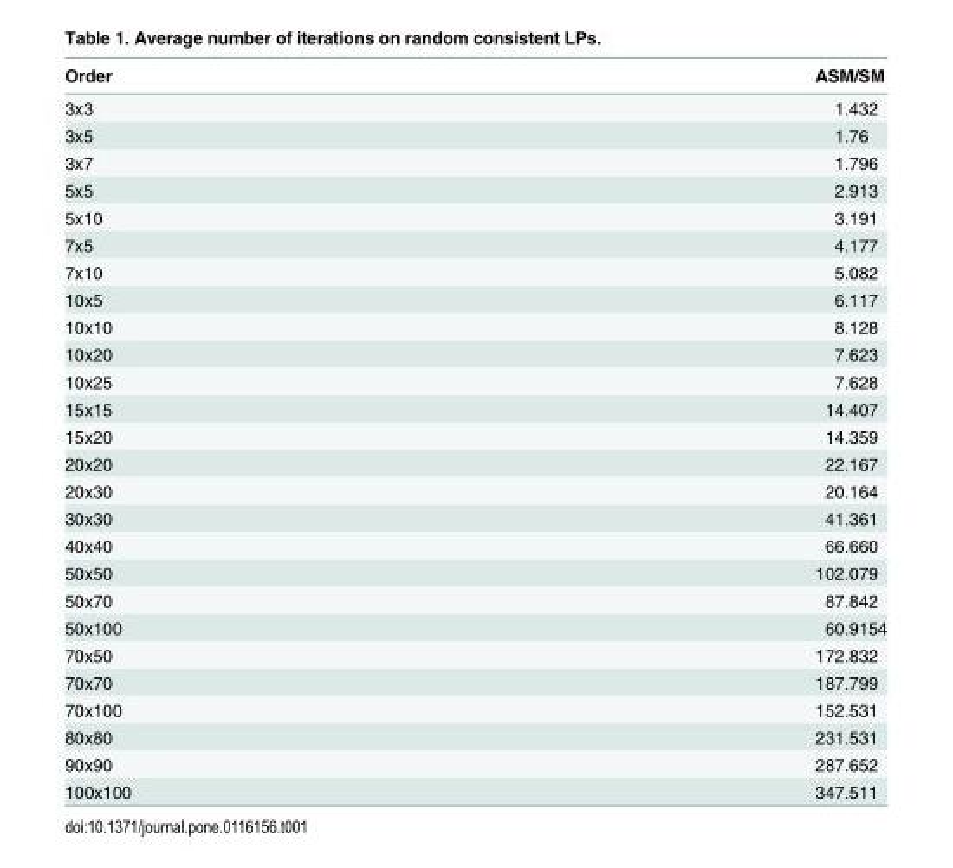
<table><thead><tr><td>Order</td><td>ASM/SM</td></tr></thead><tbody><tr><td>3x3</td><td>1.432</td></tr><tr><td>3x5</td><td>1.76</td></tr><tr><td>3x7</td><td>1.796</td></tr><tr><td>5x5</td><td>2.913</td></tr><tr><td>5x10</td><td>3.191</td></tr><tr><td>7x5</td><td>4.177</td></tr><tr><td>7x10</td><td>5.082</td></tr><tr><td>10x5</td><td>6.117</td></tr><tr><td>10x10</td><td>8.128</td></tr><tr><td>10x20</td><td>7.623</td></tr><tr><td>10x25</td><td>7.628</td></tr><tr><td>15x15</td><td>14.407</td></tr><tr><td>15x20</td><td>14.359</td></tr><tr><td>20x20</td><td>22.167</td></tr><tr><td>20x30</td><td>20.164</td></tr><tr><td>30x30</td><td>41.361</td></tr><tr><td>40x40</td><td>66.660</td></tr><tr><td>50x50</td><td>102.079</td></tr><tr><td>50x70</td><td>87.842</td></tr><tr><td>50x100</td><td>60.9154</td></tr><tr><td>70x50</td><td>172.832</td></tr><tr><td>70x70</td><td>187.799</td></tr><tr><td>70x100</td><td>152.531</td></tr><tr><td>80x80</td><td>231.531</td></tr><tr><td>90x90</td><td>287.652</td></tr><tr><td>100x100</td><td>347.511</td></tr></tbody></table>